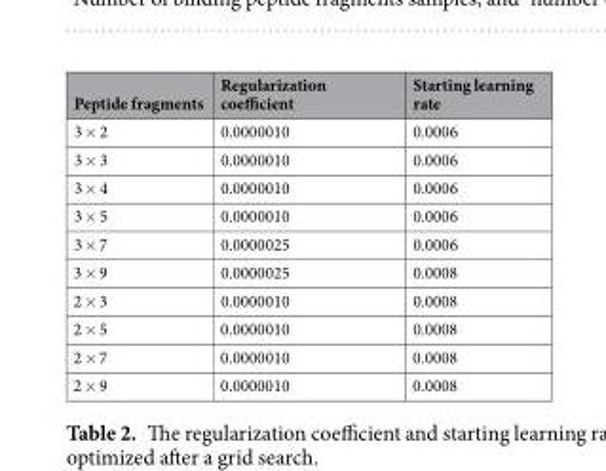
<table><thead><tr><td>Peptide fragments</td><td>Regularization coefficient</td><td>Starting learning rate</td></tr></thead><tbody><tr><td>3 × 2</td><td>0.0000010</td><td>0.0006</td></tr><tr><td>3 × 3</td><td>0.0000010</td><td>0.0006</td></tr><tr><td>3 × 4</td><td>0.0000010</td><td>0.0006</td></tr><tr><td>3 × 5</td><td>0.0000010</td><td>0.0006</td></tr><tr><td>3 × 7</td><td>0.0000025</td><td>0.0006</td></tr><tr><td>3 × 9</td><td>0.0000025</td><td>0.0008</td></tr><tr><td>2 × 3</td><td>0.0000010</td><td>0.0008</td></tr><tr><td>2 × 5</td><td>0.0000010</td><td>0.0008</td></tr><tr><td>2 × 7</td><td>0.0000010</td><td>0.0008</td></tr><tr><td>2 × 9</td><td>0.0000010</td><td>0.0008</td></tr></tbody></table>